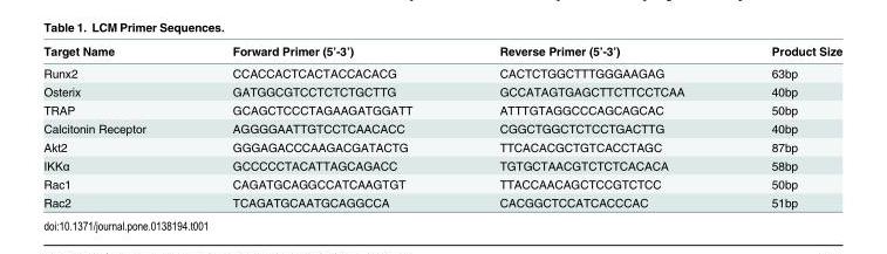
<table><thead><tr><td>Target Name</td><td>Forward Primer (5’-3’)</td><td>Reverse Primer (5’-3’)</td><td>Product Size</td></tr></thead><tbody><tr><td>Runx2</td><td>CCACCACTCACTACCACACG</td><td>CACTCTGGCTTTGGGAAGAG</td><td>63bp</td></tr><tr><td>Osterix</td><td>GATGGCGTCCTCTCTGCTTG</td><td>GCCATAGTGAGCTTCTTCCTCAA</td><td>40bp</td></tr><tr><td>TRAP</td><td>GCAGCTCCCTAGAAGATGGATT</td><td>ATTTGTAGGCCCAGCAGCAC</td><td>50bp</td></tr><tr><td>Calcitonin Receptor</td><td>AGGGGAATTGTCCTCAACACC</td><td>CGGCTGGCTCTCCTGACTTG</td><td>40bp</td></tr><tr><td>Akt2</td><td>GGGAGACCCAAGACGATACTG</td><td>TTCACACGCTGTCACCTAGC</td><td>87bp</td></tr><tr><td>IKKα</td><td>GCCCCCTACATTAGCAGACC</td><td>TGTGCTAACGTCTCTCACACA</td><td>58bp</td></tr><tr><td>Rac1</td><td>CAGATGCAGGCCATCAAGTGT</td><td>TTACCAACAGCTCCGTCTCC</td><td>50bp</td></tr><tr><td>Rac2</td><td>TCAGATGCAATGCAGGCCA</td><td>CACGGCTCCATCACCCAC</td><td>51bp</td></tr></tbody></table>